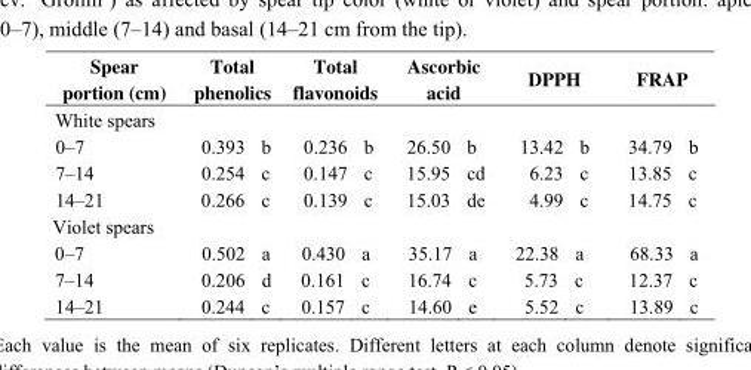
<table><thead><tr><td>Spear portion (cm)</td><td colspan="2">Total phenolics</td><td colspan="2">Total flavonoids</td><td colspan="2">Ascorbic acid</td><td colspan="2">DPPH</td><td colspan="2">FRAP</td></tr><tr><td colspan="11">White spears</td></tr><tr><td>0–7</td><td>0.393</td><td>b</td><td>0.236</td><td>b</td><td>26.50</td><td>b</td><td>13.42</td><td>b</td><td>34.79</td><td>b</td></tr></thead><tbody><tr><td>7–14</td><td>0.254</td><td>c</td><td>0.147</td><td>c</td><td>15.95</td><td>cd</td><td>6.23</td><td>c</td><td>13.85</td><td>c</td></tr><tr><td>14–21</td><td>0.266</td><td>c</td><td>0.139</td><td>c</td><td>15.03</td><td>de</td><td>4.99</td><td>c</td><td>14.75</td><td>c</td></tr><tr><td colspan="11">Violet spears</td></tr><tr><td>0–7</td><td>0.502</td><td>a</td><td>0.430</td><td>a</td><td>35.17</td><td>a</td><td>22.38</td><td>a</td><td>68.33</td><td>a</td></tr><tr><td>7–14</td><td>0.206</td><td>d</td><td>0.161</td><td>c</td><td>16.74</td><td>c</td><td>5.73</td><td>c</td><td>12.37</td><td>c</td></tr><tr><td>14–21</td><td>0.244</td><td>c</td><td>0.157</td><td>c</td><td>14.60</td><td>e</td><td>5.52</td><td>c</td><td>13.89</td><td>c</td></tr></tbody></table>